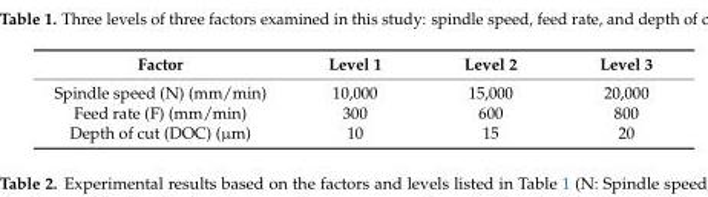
<table><thead><tr><td>Factor</td><td>Level 1</td><td>Level 2</td><td>Level 3</td></tr></thead><tbody><tr><td>Spindle speed (N) (mm/min)</td><td>10,000</td><td>15,000</td><td>20,000</td></tr><tr><td>Feed rate (F) (mm/min)</td><td>300</td><td>600</td><td>800</td></tr><tr><td>Depth of cut (DOC) (µm)</td><td>10</td><td>15</td><td>20</td></tr></tbody></table>